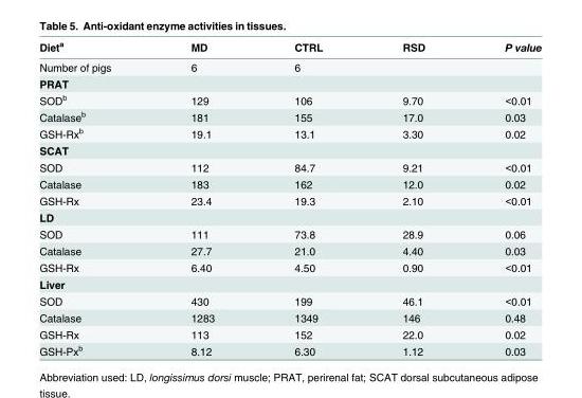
<table><thead><tr><td>Diet<sup>a</sup></td><td>MD</td><td>CTRL</td><td>RSD</td><td>P value</td></tr></thead><tbody><tr><td>Number of pigs</td><td>6</td><td>6</td><td></td><td></td></tr><tr><td colspan="5">PRAT</td></tr><tr><td>SOD<sup>b</sup></td><td>129</td><td>106</td><td>9.70</td><td>&lt;0.01</td></tr><tr><td>Catalase<sup>b</sup></td><td>181</td><td>155</td><td>17.0</td><td>0.03</td></tr><tr><td>GSH-Rx<sup>b</sup></td><td>19.1</td><td>13.1</td><td>3.30</td><td>0.02</td></tr><tr><td colspan="5">SCAT</td></tr><tr><td>SOD</td><td>112</td><td>84.7</td><td>9.21</td><td>&lt;0.01</td></tr><tr><td>Catalase</td><td>183</td><td>162</td><td>12.0</td><td>0.02</td></tr><tr><td>GSH-Rx</td><td>23.4</td><td>19.3</td><td>2.10</td><td>&lt;0.01</td></tr><tr><td colspan="5">LD</td></tr><tr><td>SOD</td><td>111</td><td>73.8</td><td>28.9</td><td>0.06</td></tr><tr><td>Catalase</td><td>27.7</td><td>21.0</td><td>4.40</td><td>0.03</td></tr><tr><td>GSH-Rx</td><td>6.40</td><td>4.50</td><td>0.90</td><td>&lt;0.01</td></tr><tr><td colspan="5">Liver</td></tr><tr><td>SOD</td><td>430</td><td>199</td><td>46.1</td><td>&lt;0.01</td></tr><tr><td>Catalase</td><td>1283</td><td>1349</td><td>146</td><td>0.48</td></tr><tr><td>GSH-Rx</td><td>113</td><td>152</td><td>22.0</td><td>0.02</td></tr><tr><td>GSH-Px<sup>b</sup></td><td>8.12</td><td>6.30</td><td>1.12</td><td>0.03</td></tr></tbody></table>